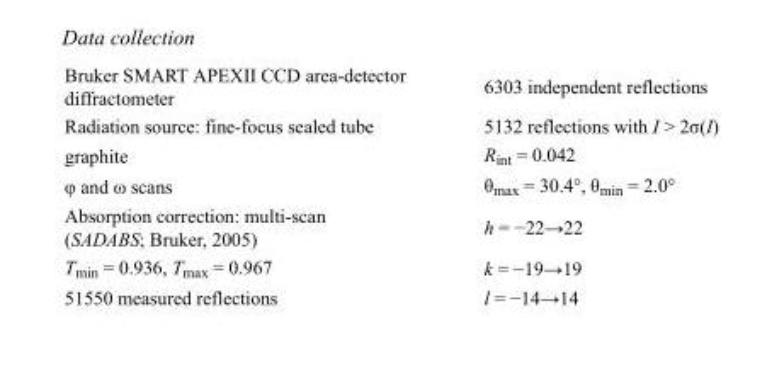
<table><tbody><tr><td>Bruker SMART APEXII CCD area-detector diffractometer</td><td>6303 independent reflections</td></tr><tr><td>Radiation source: fine-focus sealed tube</td><td>5132 reflections with I &gt; 2σ(I)</td></tr><tr><td>graphite</td><td>R<sub>int</sub> = 0.042</td></tr><tr><td>φ and ω scans</td><td>θ<sub>max</sub> = 30.4°, θ<sub>min</sub> = 2.0°</td></tr><tr><td>Absorption correction: multi-scan (SADABS; Bruker, 2005)</td><td>h = −22→22</td></tr><tr><td>T<sub>min</sub> = 0.936, T<sub>max</sub> = 0.967</td><td>k = −19→19</td></tr><tr><td>51550 measured reflections</td><td>l = −14→14</td></tr></tbody></table>